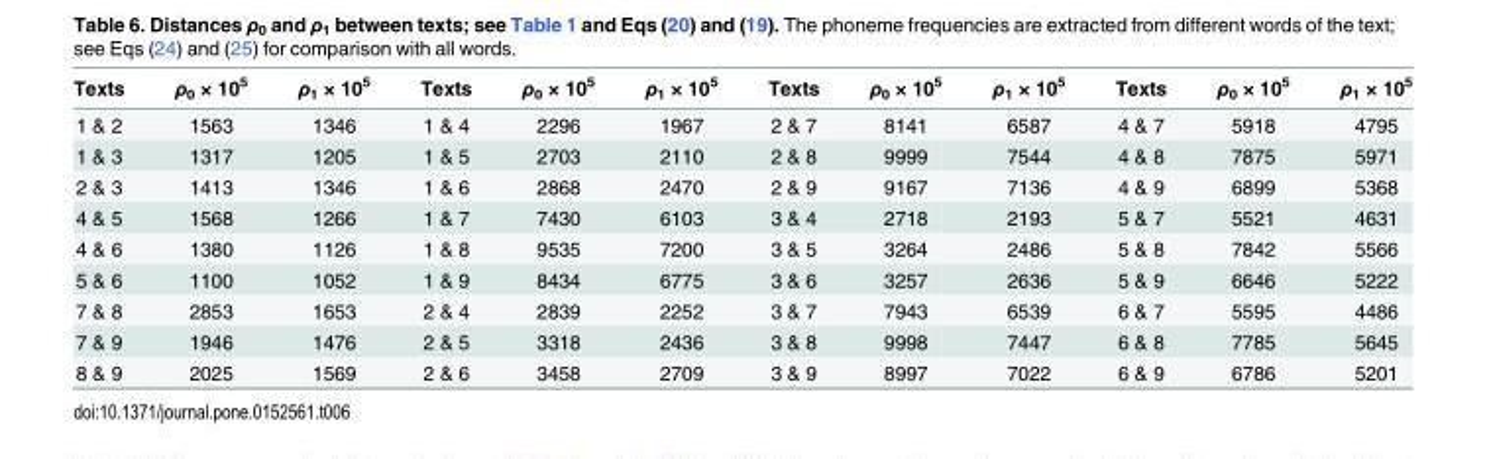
<table><thead><tr><td>Texts</td><td>ρ<sub>0</sub> × 10<sup>5</sup></td><td>ρ<sub>1</sub> × 10<sup>5</sup></td><td>Texts</td><td>ρ<sub>0</sub> × 10<sup>5</sup></td><td>ρ<sub>1</sub> × 10<sup>5</sup></td><td>Texts</td><td>ρ<sub>0</sub> × 10<sup>5</sup></td><td>ρ<sub>1</sub> × 10<sup>5</sup></td><td>Texts</td><td>ρ<sub>0</sub> × 10<sup>5</sup></td><td>ρ<sub>1</sub> × 10<sup>5</sup></td></tr></thead><tbody><tr><td>1 &amp; 2</td><td>1563</td><td>1346</td><td>1 &amp; 4</td><td>2296</td><td>1967</td><td>2 &amp; 7</td><td>8141</td><td>6587</td><td>4 &amp; 7</td><td>5918</td><td>4795</td></tr><tr><td>1 &amp; 3</td><td>1317</td><td>1205</td><td>1 &amp; 5</td><td>2703</td><td>2110</td><td>2 &amp; 8</td><td>9999</td><td>7544</td><td>4 &amp; 8</td><td>7875</td><td>5971</td></tr><tr><td>2 &amp; 3</td><td>1413</td><td>1346</td><td>1 &amp; 6</td><td>2868</td><td>2470</td><td>2 &amp; 9</td><td>9167</td><td>7136</td><td>4 &amp; 9</td><td>6899</td><td>5368</td></tr><tr><td>4 &amp; 5</td><td>1568</td><td>1266</td><td>1 &amp; 7</td><td>7430</td><td>6103</td><td>3 &amp; 4</td><td>2718</td><td>2193</td><td>5 &amp; 7</td><td>5521</td><td>4631</td></tr><tr><td>4 &amp; 6</td><td>1380</td><td>1126</td><td>1 &amp; 8</td><td>9535</td><td>7200</td><td>3 &amp; 5</td><td>3264</td><td>2486</td><td>5 &amp; 8</td><td>7842</td><td>5566</td></tr><tr><td>5 &amp; 6</td><td>1100</td><td>1052</td><td>1 &amp; 9</td><td>8434</td><td>6775</td><td>3 &amp; 6</td><td>3257</td><td>2636</td><td>5 &amp; 9</td><td>6646</td><td>5222</td></tr><tr><td>7 &amp; 8</td><td>2853</td><td>1653</td><td>2 &amp; 4</td><td>2839</td><td>2252</td><td>3 &amp; 7</td><td>7943</td><td>6539</td><td>6 &amp; 7</td><td>5595</td><td>4486</td></tr><tr><td>7 &amp; 9</td><td>1946</td><td>1476</td><td>2 &amp; 5</td><td>3318</td><td>2436</td><td>3 &amp; 8</td><td>9998</td><td>7447</td><td>6 &amp; 8</td><td>7785</td><td>5645</td></tr><tr><td>8 &amp; 9</td><td>2025</td><td>1569</td><td>2 &amp; 6</td><td>3458</td><td>2709</td><td>3 &amp; 9</td><td>8997</td><td>7022</td><td>6 &amp; 9</td><td>6786</td><td>5201</td></tr></tbody></table>